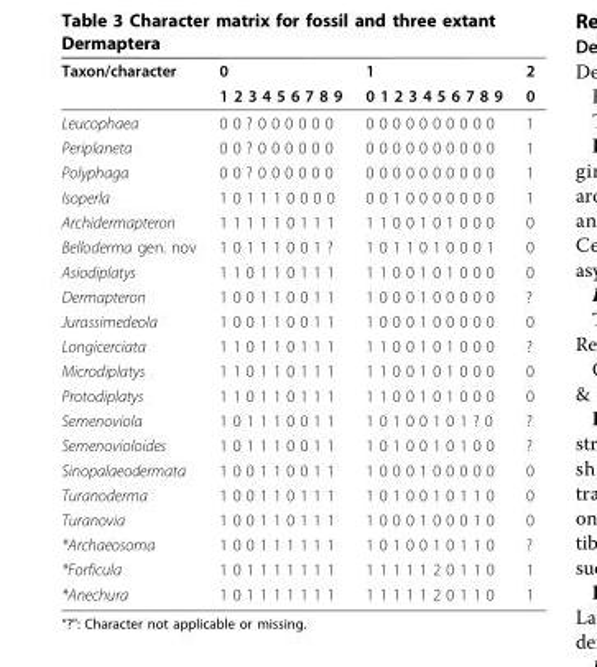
<table><thead><tr><td rowspan="2">Taxon/character</td><td rowspan="2">0 1 2 3 4 5 6 7 8 9</td><td rowspan="2">1 0 1 2 3 4 5 6 7 8 9</td><td rowspan="2">2 0</td></tr><tr></tr></thead><tbody><tr><td>Leucophaea</td><td>0 0 ? 0 0 0 0 0 0</td><td>0 0 0 0 0 0 0 0 0 0</td><td>1</td></tr><tr><td>Periplaneta</td><td>0 0 ? 0 0 0 0 0 0</td><td>0 0 0 0 0 0 0 0 0 0</td><td>1</td></tr><tr><td>Polyphaga</td><td>0 0 ? 0 0 0 0 0 0</td><td>0 0 0 0 0 0 0 0 0 0</td><td>1</td></tr><tr><td>Isoperla</td><td>1 0 1 1 1 0 0 0 0</td><td>0 0 1 0 0 0 0 0 0 0</td><td>1</td></tr><tr><td>Archidermapteron</td><td>1 1 1 1 1 0 1 1 1</td><td>1 1 0 0 1 0 1 0 0 0</td><td>0</td></tr><tr><td>Belloderma gen. nov</td><td>1 0 1 1 1 0 0 1 ?</td><td>1 0 1 1 0 1 0 0 0 1</td><td>0</td></tr><tr><td>Asiodiplatys</td><td>1 1 0 1 1 0 1 1 1</td><td>1 1 0 0 1 0 1 0 0 0</td><td>0</td></tr><tr><td>Dermapteron</td><td>1 0 0 1 1 0 0 1 1</td><td>1 0 0 0 1 0 0 0 0 0</td><td>?</td></tr><tr><td>Jurassimedeola</td><td>1 0 0 1 1 0 0 1 1</td><td>1 0 0 0 1 0 0 0 0 0</td><td>0</td></tr><tr><td>Longicerciata</td><td>1 1 0 1 1 0 1 1 1</td><td>1 1 0 0 1 0 1 0 0 0</td><td>?</td></tr><tr><td>Microdiplatys</td><td>1 1 0 1 1 0 1 1 1</td><td>1 1 0 0 1 0 1 0 0 0</td><td>0</td></tr><tr><td>Protodiplatys</td><td>1 1 0 1 1 0 1 1 1</td><td>1 1 0 0 1 0 1 0 0 0</td><td>0</td></tr><tr><td>Semenoviola</td><td>1 0 1 1 1 0 0 1 1</td><td>1 0 1 0 0 1 0 1 ? 0</td><td>?</td></tr><tr><td>Semenovioloides</td><td>1 0 1 1 1 0 0 1 1</td><td>1 0 1 0 0 1 0 1 0 0</td><td>?</td></tr><tr><td>Sinopalaeodermata</td><td>1 0 0 1 1 0 0 1 1</td><td>1 0 0 0 1 0 0 0 0 0</td><td>0</td></tr><tr><td>Turanoderma</td><td>1 0 0 1 1 0 1 1 1</td><td>1 0 1 0 0 1 0 1 1 0</td><td>0</td></tr><tr><td>Turanovia</td><td>1 0 0 1 1 0 1 1 1</td><td>1 0 0 0 1 0 0 0 1 0</td><td>0</td></tr><tr><td>*Archaeosoma</td><td>1 0 0 1 1 1 1 1 1</td><td>1 0 1 0 0 1 0 1 1 0</td><td>?</td></tr><tr><td>*Forficula</td><td>1 0 1 1 1 1 1 1 1</td><td>1 1 1 1 1 2 0 1 1 0</td><td>1</td></tr><tr><td>*Anechura</td><td>1 0 1 1 1 1 1 1 1</td><td>1 1 1 1 1 2 0 1 1 0</td><td>1</td></tr></tbody></table>